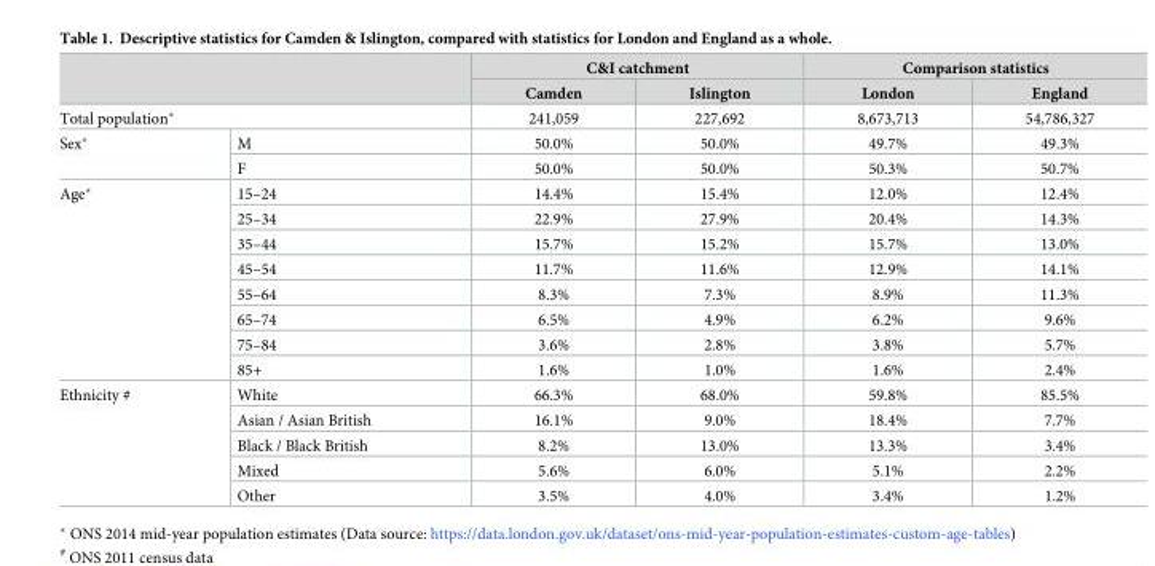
<table><thead><tr><td rowspan="2"></td><td rowspan="2"></td><td colspan="2">C&amp;I catchment</td><td colspan="2">Comparison statistics</td></tr><tr><td>Camden</td><td>Islington</td><td>London</td><td>England</td></tr></thead><tbody><tr><td colspan="2">Total population*</td><td>241,059</td><td>227,692</td><td>8,673,713</td><td>54,786,327</td></tr><tr><td rowspan="2">Sex*</td><td>M</td><td>50.0%</td><td>50.0%</td><td>49.7%</td><td>49.3%</td></tr><tr><td>F</td><td>50.0%</td><td>50.0%</td><td>50.3%</td><td>50.7%</td></tr><tr><td rowspan="8">Age*</td><td>15–24</td><td>14.4%</td><td>15.4%</td><td>12.0%</td><td>12.4%</td></tr><tr><td>25–34</td><td>22.9%</td><td>27.9%</td><td>20.4%</td><td>14.3%</td></tr><tr><td>35–44</td><td>15.7%</td><td>15.2%</td><td>15.7%</td><td>13.0%</td></tr><tr><td>45–54</td><td>11.7%</td><td>11.6%</td><td>12.9%</td><td>14.1%</td></tr><tr><td>55–64</td><td>8.3%</td><td>7.3%</td><td>8.9%</td><td>11.3%</td></tr><tr><td>65–74</td><td>6.5%</td><td>4.9%</td><td>6.2%</td><td>9.6%</td></tr><tr><td>75–84</td><td>3.6%</td><td>2.8%</td><td>3.8%</td><td>5.7%</td></tr><tr><td>85+</td><td>1.6%</td><td>1.0%</td><td>1.6%</td><td>2.4%</td></tr><tr><td rowspan="5">Ethnicity #</td><td>White</td><td>66.3%</td><td>68.0%</td><td>59.8%</td><td>85.5%</td></tr><tr><td>Asian / Asian British</td><td>16.1%</td><td>9.0%</td><td>18.4%</td><td>7.7%</td></tr><tr><td>Black / Black British</td><td>8.2%</td><td>13.0%</td><td>13.3%</td><td>3.4%</td></tr><tr><td>Mixed</td><td>5.6%</td><td>6.0%</td><td>5.1%</td><td>2.2%</td></tr><tr><td>Other</td><td>3.5%</td><td>4.0%</td><td>3.4%</td><td>1.2%</td></tr></tbody></table>